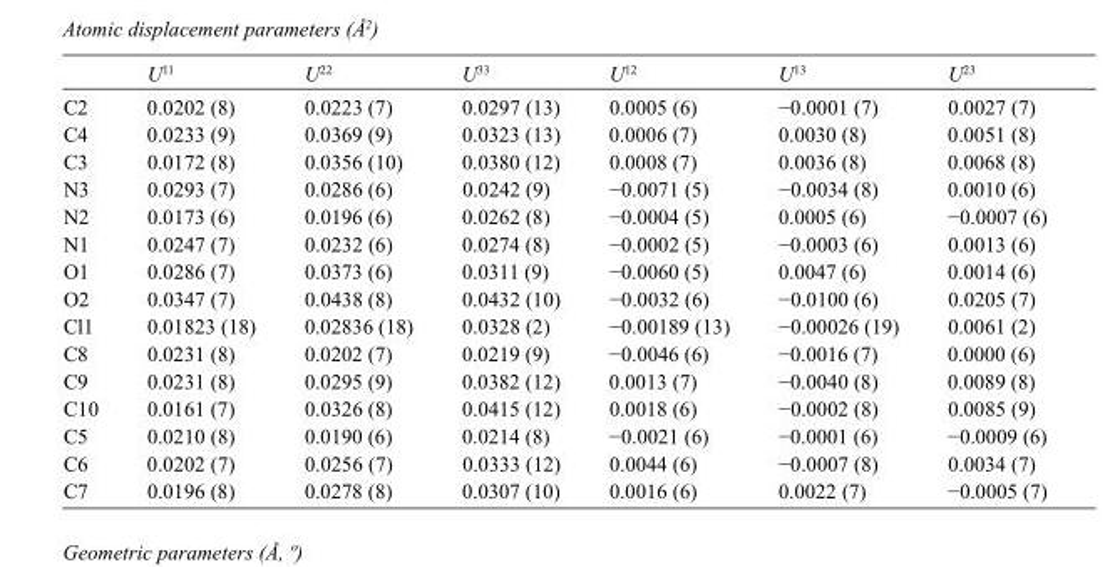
<table><thead><tr><td></td><td>U<sup>11</sup></td><td>U<sup>22</sup></td><td>U<sup>33</sup></td><td>U<sup>12</sup></td><td>U<sup>13</sup></td><td>U<sup>23</sup></td></tr></thead><tbody><tr><td>C2</td><td>0.0202 (8)</td><td>0.0223 (7)</td><td>0.0297 (13)</td><td>0.0005 (6)</td><td>−0.0001 (7)</td><td>0.0027 (7)</td></tr><tr><td>C4</td><td>0.0233 (9)</td><td>0.0369 (9)</td><td>0.0323 (13)</td><td>0.0006 (7)</td><td>0.0030 (8)</td><td>0.0051 (8)</td></tr><tr><td>C3</td><td>0.0172 (8)</td><td>0.0356 (10)</td><td>0.0380 (12)</td><td>0.0008 (7)</td><td>0.0036 (8)</td><td>0.0068 (8)</td></tr><tr><td>N3</td><td>0.0293 (7)</td><td>0.0286 (6)</td><td>0.0242 (9)</td><td>−0.0071 (5)</td><td>−0.0034 (8)</td><td>0.0010 (6)</td></tr><tr><td>N2</td><td>0.0173 (6)</td><td>0.0196 (6)</td><td>0.0262 (8)</td><td>−0.0004 (5)</td><td>0.0005 (6)</td><td>−0.0007 (6)</td></tr><tr><td>N1</td><td>0.0247 (7)</td><td>0.0232 (6)</td><td>0.0274 (8)</td><td>−0.0002 (5)</td><td>−0.0003 (6)</td><td>0.0013 (6)</td></tr><tr><td>O1</td><td>0.0286 (7)</td><td>0.0373 (6)</td><td>0.0311 (9)</td><td>−0.0060 (5)</td><td>0.0047 (6)</td><td>0.0014 (6)</td></tr><tr><td>O2</td><td>0.0347 (7)</td><td>0.0438 (8)</td><td>0.0432 (10)</td><td>−0.0032 (6)</td><td>−0.0100 (6)</td><td>0.0205 (7)</td></tr><tr><td>Cl1</td><td>0.01823 (18)</td><td>0.02836 (18)</td><td>0.0328 (2)</td><td>−0.00189 (13)</td><td>−0.00026 (19)</td><td>0.0061 (2)</td></tr><tr><td>C8</td><td>0.0231 (8)</td><td>0.0202 (7)</td><td>0.0219 (9)</td><td>−0.0046 (6)</td><td>−0.0016 (7)</td><td>0.0000 (6)</td></tr><tr><td>C9</td><td>0.0231 (8)</td><td>0.0295 (9)</td><td>0.0382 (12)</td><td>0.0013 (7)</td><td>−0.0040 (8)</td><td>0.0089 (8)</td></tr><tr><td>C10</td><td>0.0161 (7)</td><td>0.0326 (8)</td><td>0.0415 (12)</td><td>0.0018 (6)</td><td>−0.0002 (8)</td><td>0.0085 (9)</td></tr><tr><td>C5</td><td>0.0210 (8)</td><td>0.0190 (6)</td><td>0.0214 (8)</td><td>−0.0021 (6)</td><td>−0.0001 (6)</td><td>−0.0009 (6)</td></tr><tr><td>C6</td><td>0.0202 (7)</td><td>0.0256 (7)</td><td>0.0333 (12)</td><td>0.0044 (6)</td><td>−0.0007 (8)</td><td>0.0034 (7)</td></tr><tr><td>C7</td><td>0.0196 (8)</td><td>0.0278 (8)</td><td>0.0307 (10)</td><td>0.0016 (6)</td><td>0.0022 (7)</td><td>−0.0005 (7)</td></tr></tbody></table>